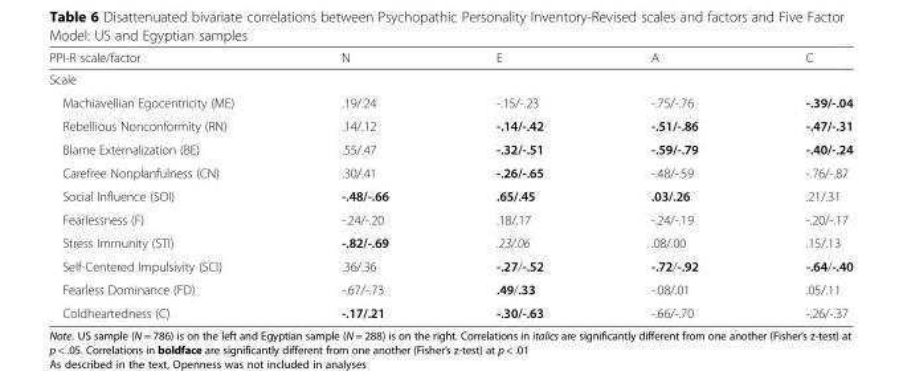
<table><thead><tr><td>PPI-R scale/factor</td><td>N</td><td>E</td><td>A</td><td>C</td></tr></thead><tbody><tr><td colspan="5">Scale</td></tr><tr><td>Machiavellian Egocentricity (ME)</td><td>.19/.24</td><td>-.15/-.23</td><td>-.75/-.76</td><td>-.39/-.04</td></tr><tr><td>Rebellious Nonconformity (RN)</td><td>.14/.12</td><td>-.14/-.42</td><td>-.51/-.86</td><td>-.47/-.31</td></tr><tr><td>Blame Externalization (BE)</td><td>.55/.47</td><td>-.32/-.51</td><td>-.59/-.79</td><td>-.40/-.24</td></tr><tr><td>Carefree Nonplanfulness (CN)</td><td>.30/.41</td><td>-.26/-.65</td><td>-.48/-.59</td><td>-.76/-.87</td></tr><tr><td>Social Influence (SOI)</td><td>-.48/-.66</td><td>.65/.45</td><td>.03/.26</td><td>.21/.31</td></tr><tr><td>Fearlessness (F)</td><td>-.24/-.20</td><td>.18/.17</td><td>-.24/-.19</td><td>-.20/-.17</td></tr><tr><td>Stress Immunity (STI)</td><td>-.82/-.69</td><td>.23/.06</td><td>.08/.00</td><td>.15/.13</td></tr><tr><td>Self-Centered Impulsivity (SCI)</td><td>.36/.36</td><td>-.27/-.52</td><td>-.72/-.92</td><td>-.64/-.40</td></tr><tr><td>Fearless Dominance (FD)</td><td>-.67/-.73</td><td>.49/.33</td><td>-.08/.01</td><td>.05/.11</td></tr><tr><td>Coldheartedness (C)</td><td>-.17/.21</td><td>-.30/-.63</td><td>-.66/-.70</td><td>-.26/-.37</td></tr></tbody></table>